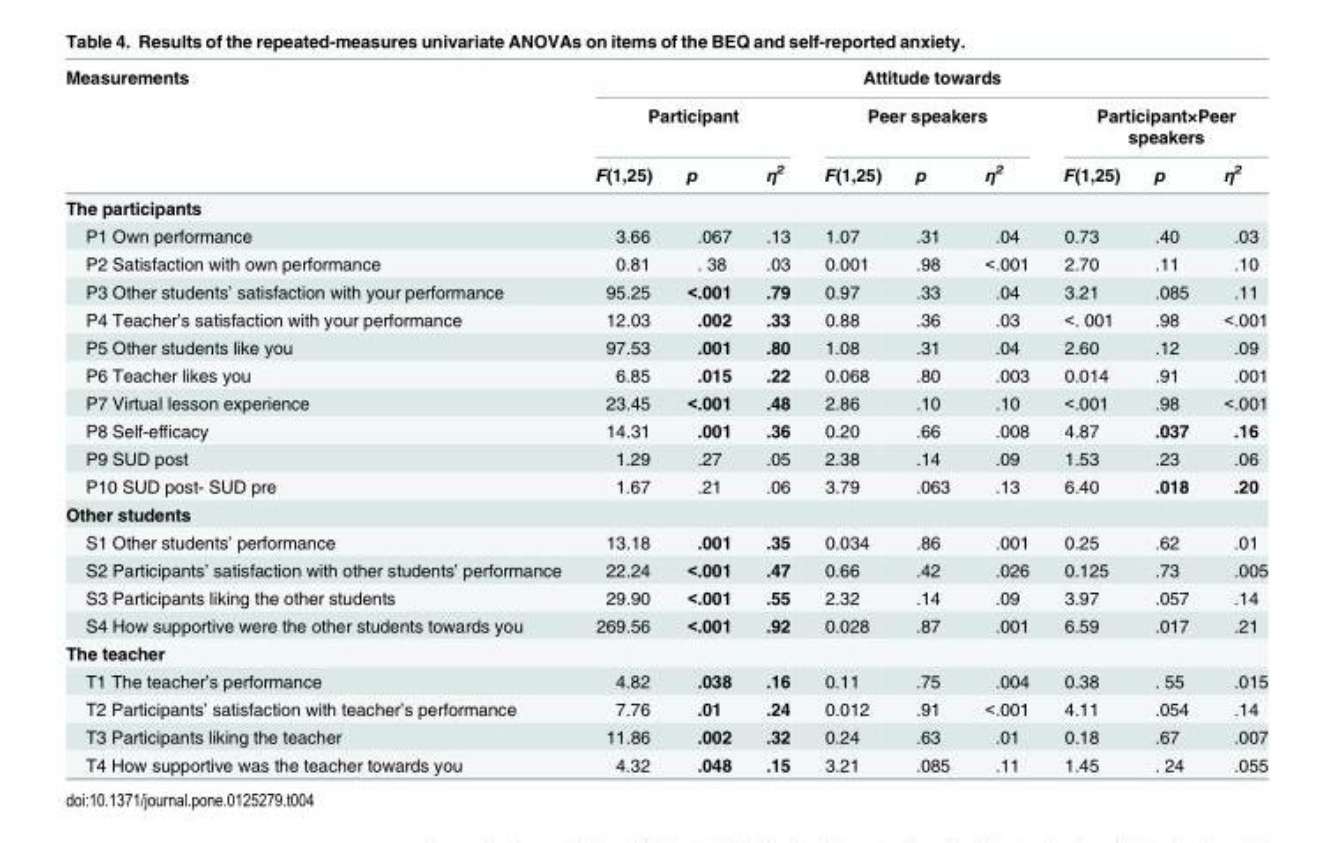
<table><thead><tr><td rowspan="3">Measurements</td><td colspan="9">Attitude towards</td></tr><tr><td colspan="3">Participant</td><td colspan="3">Peer speakers</td><td colspan="3">Participant×Peer speakers</td></tr><tr><td>F(1,25)</td><td>p</td><td>η<sup>2</sup></td><td>F(1,25)</td><td>p</td><td>η<sup>2</sup></td><td>F(1,25)</td><td>p</td><td>η<sup>2</sup></td></tr></thead><tbody><tr><td colspan="10">The participants</td></tr><tr><td>P1 Own performance</td><td>3.66</td><td>.067</td><td>.13</td><td>1.07</td><td>.31</td><td>.04</td><td>0.73</td><td>.40</td><td>.03</td></tr><tr><td>P2 Satisfaction with own performance</td><td>0.81</td><td>. 38</td><td>.03</td><td>0.001</td><td>.98</td><td>&lt;.001</td><td>2.70</td><td>.11</td><td>.10</td></tr><tr><td>P3 Other students’ satisfaction with your performance</td><td>95.25</td><td>&lt;.001</td><td>.79</td><td>0.97</td><td>.33</td><td>.04</td><td>3.21</td><td>.085</td><td>.11</td></tr><tr><td>P4 Teacher’s satisfaction with your performance</td><td>12.03</td><td>.002</td><td>.33</td><td>0.88</td><td>.36</td><td>.03</td><td>&lt;. 001</td><td>.98</td><td>&lt;.001</td></tr><tr><td>P5 Other students like you</td><td>97.53</td><td>.001</td><td>.80</td><td>1.08</td><td>.31</td><td>.04</td><td>2.60</td><td>.12</td><td>.09</td></tr><tr><td>P6 Teacher likes you</td><td>6.85</td><td>.015</td><td>.22</td><td>0.068</td><td>.80</td><td>.003</td><td>0.014</td><td>.91</td><td>.001</td></tr><tr><td>P7 Virtual lesson experience</td><td>23.45</td><td>&lt;.001</td><td>.48</td><td>2.86</td><td>.10</td><td>.10</td><td>&lt;.001</td><td>.98</td><td>&lt;.001</td></tr><tr><td>P8 Self-efficacy</td><td>14.31</td><td>.001</td><td>.36</td><td>0.20</td><td>.66</td><td>.008</td><td>4.87</td><td>.037</td><td>.16</td></tr><tr><td>P9 SUD post</td><td>1.29</td><td>.27</td><td>.05</td><td>2.38</td><td>.14</td><td>.09</td><td>1.53</td><td>.23</td><td>.06</td></tr><tr><td>P10 SUD post- SUD pre</td><td>1.67</td><td>.21</td><td>.06</td><td>3.79</td><td>.063</td><td>.13</td><td>6.40</td><td>.018</td><td>.20</td></tr><tr><td colspan="10">Other students</td></tr><tr><td>S1 Other students’ performance</td><td>13.18</td><td>.001</td><td>.35</td><td>0.034</td><td>.86</td><td>.001</td><td>0.25</td><td>.62</td><td>.01</td></tr><tr><td>S2 Participants’ satisfaction with other students’ performance</td><td>22.24</td><td>&lt;.001</td><td>.47</td><td>0.66</td><td>.42</td><td>.026</td><td>0.125</td><td>.73</td><td>.005</td></tr><tr><td>S3 Participants liking the other students</td><td>29.90</td><td>&lt;.001</td><td>.55</td><td>2.32</td><td>.14</td><td>.09</td><td>3.97</td><td>.057</td><td>.14</td></tr><tr><td>S4 How supportive were the other students towards you</td><td>269.56</td><td>&lt;.001</td><td>.92</td><td>0.028</td><td>.87</td><td>.001</td><td>6.59</td><td>.017</td><td>.21</td></tr><tr><td colspan="10">The teacher</td></tr><tr><td>T1 The teacher’s performance</td><td>4.82</td><td>.038</td><td>.16</td><td>0.11</td><td>.75</td><td>.004</td><td>0.38</td><td>. 55</td><td>.015</td></tr><tr><td>T2 Participants’ satisfaction with teacher’s performance</td><td>7.76</td><td>.01</td><td>.24</td><td>0.012</td><td>.91</td><td>&lt;.001</td><td>4.11</td><td>.054</td><td>.14</td></tr><tr><td>T3 Participants liking the teacher</td><td>11.86</td><td>.002</td><td>.32</td><td>0.24</td><td>.63</td><td>.01</td><td>0.18</td><td>.67</td><td>.007</td></tr><tr><td>T4 How supportive was the teacher towards you</td><td>4.32</td><td>.048</td><td>.15</td><td>3.21</td><td>.085</td><td>.11</td><td>1.45</td><td>. 24</td><td>.055</td></tr></tbody></table>